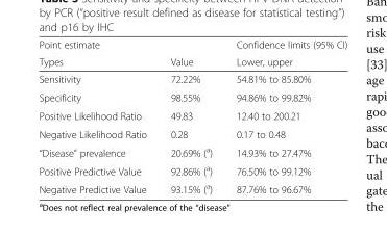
<table><thead><tr><td rowspan="2">Point estimate Types</td><td rowspan="2">Value</td><td rowspan="2">Confidence limits (95% CI) Lower, upper</td></tr><tr></tr></thead><tbody><tr><td>Sensitivity</td><td>72.22%</td><td>54.81% to 85.80%</td></tr><tr><td>Specificity</td><td>98.55%</td><td>94.86% to 99.82%</td></tr><tr><td>Positive Likelihood Ratio</td><td>49.83</td><td>12.40 to 200.21</td></tr><tr><td>Negative Likelihood Ratio</td><td>0.28</td><td>0.17 to 0.48</td></tr><tr><td>“Disease” prevalence</td><td>20.69% (<sup>a</sup>)</td><td>14.93% to 27.47%</td></tr><tr><td>Positive Predictive Value</td><td>92.86% (<sup>a</sup>)</td><td>76.50% to 99.12%</td></tr><tr><td>Negative Predictive Value</td><td>93.15% (<sup>a</sup>)</td><td>87.76% to 96.67%</td></tr></tbody></table>